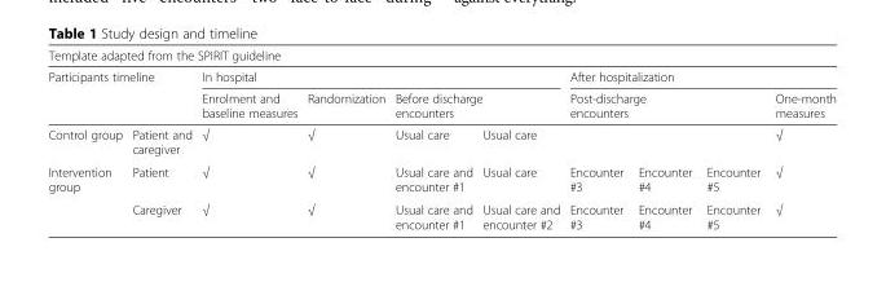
<table><thead><tr><td colspan="10">Template adapted from the SPIRIT guideline</td></tr><tr><td rowspan="2" colspan="2">Participants timeline</td><td colspan="4">In hospital</td><td colspan="4">After hospitalization</td></tr><tr><td rowspan="2">Enrolment and baseline measures √</td><td rowspan="2">Randomization √</td><td colspan="2">Before discharge encounters</td><td colspan="3">Post-discharge encounters</td><td rowspan="2">One-month measures √</td></tr><tr><td>Control group</td><td>Patient and caregiver</td><td>Usual care</td><td>Usual care</td><td></td><td></td><td></td></tr></thead><tbody><tr><td rowspan="2">Intervention group</td><td>Patient</td><td>√</td><td>√</td><td>Usual care and encounter #1</td><td>Usual care</td><td>Encounter #3</td><td>Encounter #4</td><td>Encounter #5</td><td>√</td></tr><tr><td>Caregiver</td><td>√</td><td>√</td><td>Usual care and encounter #1</td><td>Usual care and encounter #2</td><td>Encounter #3</td><td>Encounter #4</td><td>Encounter #5</td><td>√</td></tr></tbody></table>